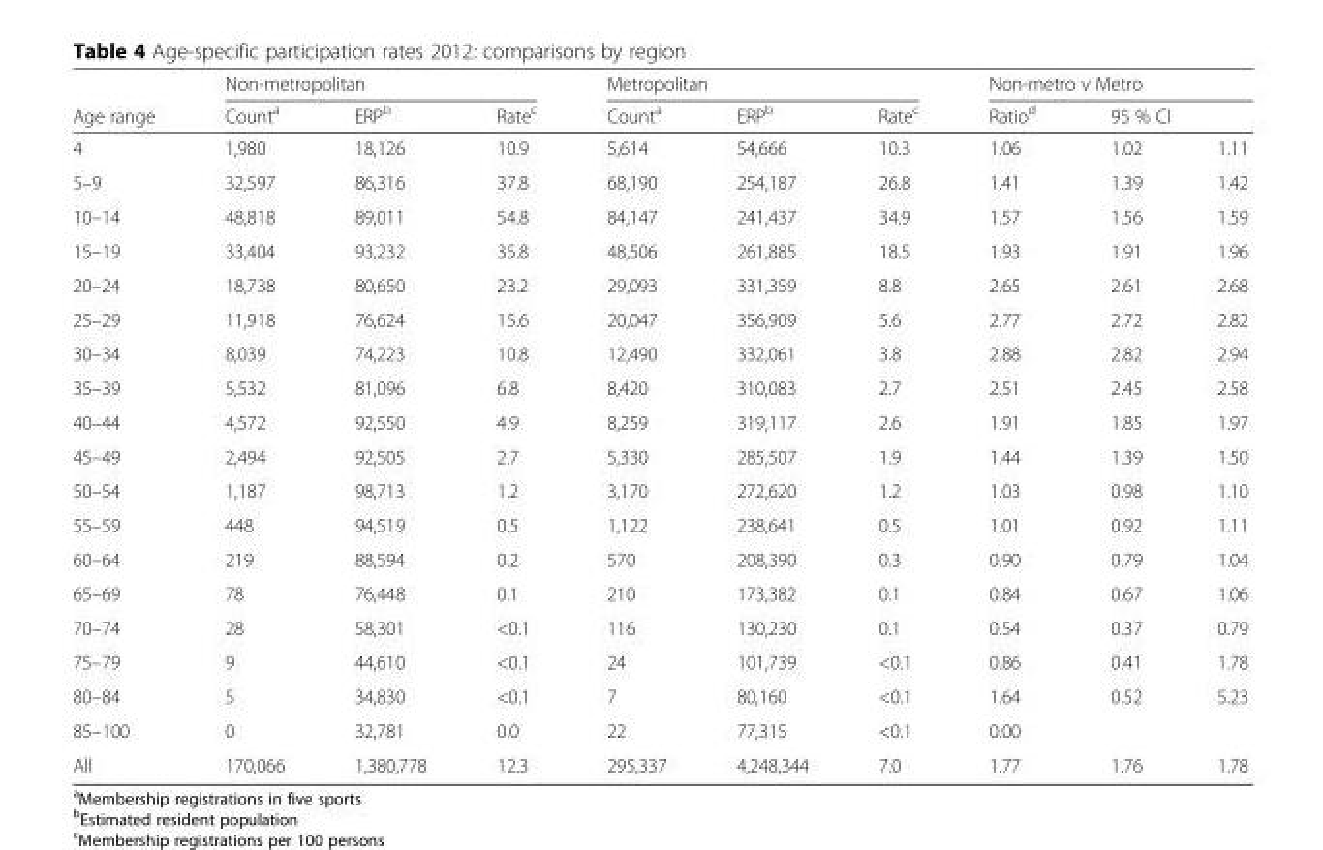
<table><thead><tr><td rowspan="3">Age range 4</td><td colspan="3">Non-metropolitan</td><td colspan="3">Metropolitan</td><td colspan="3">Non-metro v Metro</td></tr><tr><td rowspan="2">Count<sup>a</sup> 1,980</td><td rowspan="2">ERP<sup>b</sup> 18,126</td><td rowspan="2">Rate<sup>c</sup> 10.9</td><td rowspan="2">Count<sup>a</sup> 5,614</td><td rowspan="2">ERP<sup>b</sup> 54,666</td><td rowspan="2">Rate<sup>c</sup> 10.3</td><td rowspan="2">Ratio<sup>d</sup> 1.06</td><td colspan="2">95 % CI</td></tr><tr><td>1.02</td><td>1.11</td></tr></thead><tbody><tr><td>5–9</td><td>32,597</td><td>86,316</td><td>37.8</td><td>68,190</td><td>254,187</td><td>26.8</td><td>1.41</td><td>1.39</td><td>1.42</td></tr><tr><td>10–14</td><td>48,818</td><td>89,011</td><td>54.8</td><td>84,147</td><td>241,437</td><td>34.9</td><td>1.57</td><td>1.56</td><td>1.59</td></tr><tr><td>15–19</td><td>33,404</td><td>93,232</td><td>35.8</td><td>48,506</td><td>261,885</td><td>18.5</td><td>1.93</td><td>1.91</td><td>1.96</td></tr><tr><td>20–24</td><td>18,738</td><td>80,650</td><td>23.2</td><td>29,093</td><td>331,359</td><td>8.8</td><td>2.65</td><td>2.61</td><td>2.68</td></tr><tr><td>25–29</td><td>11,918</td><td>76,624</td><td>15.6</td><td>20,047</td><td>356,909</td><td>5.6</td><td>2.77</td><td>2.72</td><td>2.82</td></tr><tr><td>30–34</td><td>8,039</td><td>74,223</td><td>10.8</td><td>12,490</td><td>332,061</td><td>3.8</td><td>2.88</td><td>2.82</td><td>2.94</td></tr><tr><td>35–39</td><td>5,532</td><td>81,096</td><td>6.8</td><td>8,420</td><td>310,083</td><td>2.7</td><td>2.51</td><td>2.45</td><td>2.58</td></tr><tr><td>40–44</td><td>4,572</td><td>92,550</td><td>4.9</td><td>8,259</td><td>319,117</td><td>2.6</td><td>1.91</td><td>1.85</td><td>1.97</td></tr><tr><td>45–49</td><td>2,494</td><td>92,505</td><td>2.7</td><td>5,330</td><td>285,507</td><td>1.9</td><td>1.44</td><td>1.39</td><td>1.50</td></tr><tr><td>50–54</td><td>1,187</td><td>98,713</td><td>1.2</td><td>3,170</td><td>272,620</td><td>1.2</td><td>1.03</td><td>0.98</td><td>1.10</td></tr><tr><td>55–59</td><td>448</td><td>94,519</td><td>0.5</td><td>1,122</td><td>238,641</td><td>0.5</td><td>1.01</td><td>0.92</td><td>1.11</td></tr><tr><td>60–64</td><td>219</td><td>88,594</td><td>0.2</td><td>570</td><td>208,390</td><td>0.3</td><td>0.90</td><td>0.79</td><td>1.04</td></tr><tr><td>65–69</td><td>78</td><td>76,448</td><td>0.1</td><td>210</td><td>173,382</td><td>0.1</td><td>0.84</td><td>0.67</td><td>1.06</td></tr><tr><td>70–74</td><td>28</td><td>58,301</td><td>&lt;0.1</td><td>116</td><td>130,230</td><td>0.1</td><td>0.54</td><td>0.37</td><td>0.79</td></tr><tr><td>75–79</td><td>9</td><td>44,610</td><td>&lt;0.1</td><td>24</td><td>101,739</td><td>&lt;0.1</td><td>0.86</td><td>0.41</td><td>1.78</td></tr><tr><td>80–84</td><td>5</td><td>34,830</td><td>&lt;0.1</td><td>7</td><td>80,160</td><td>&lt;0.1</td><td>1.64</td><td>0.52</td><td>5.23</td></tr><tr><td>85–100</td><td>0</td><td>32,781</td><td>0.0</td><td>22</td><td>77,315</td><td>&lt;0.1</td><td>0.00</td><td></td><td></td></tr><tr><td>All</td><td>170,066</td><td>1,380,778</td><td>12.3</td><td>295,337</td><td>4,248,344</td><td>7.0</td><td>1.77</td><td>1.76</td><td>1.78</td></tr></tbody></table>